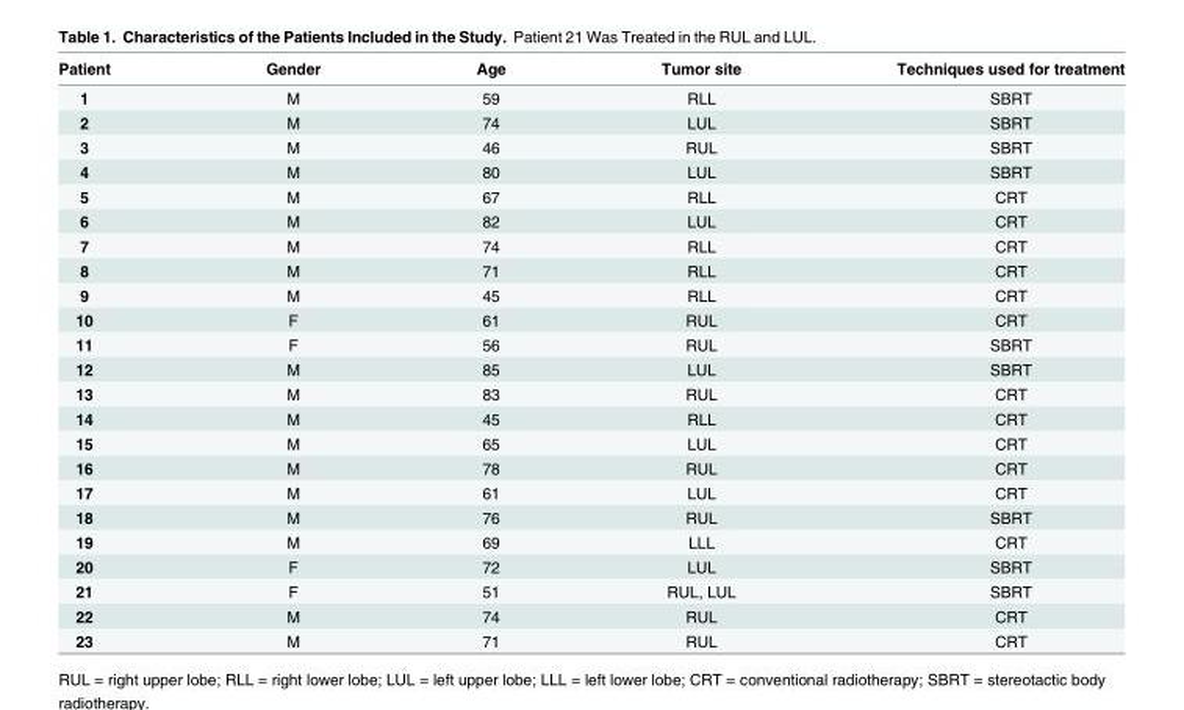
<table><thead><tr><td>Patient</td><td>Gender</td><td>Age</td><td>Tumor site</td><td>Techniques used for treatment</td></tr></thead><tbody><tr><td>1</td><td>M</td><td>59</td><td>RLL</td><td>SBRT</td></tr><tr><td>2</td><td>M</td><td>74</td><td>LUL</td><td>SBRT</td></tr><tr><td>3</td><td>M</td><td>46</td><td>RUL</td><td>SBRT</td></tr><tr><td>4</td><td>M</td><td>80</td><td>LUL</td><td>SBRT</td></tr><tr><td>5</td><td>M</td><td>67</td><td>RLL</td><td>CRT</td></tr><tr><td>6</td><td>M</td><td>82</td><td>LUL</td><td>CRT</td></tr><tr><td>7</td><td>M</td><td>74</td><td>RLL</td><td>CRT</td></tr><tr><td>8</td><td>M</td><td>71</td><td>RLL</td><td>CRT</td></tr><tr><td>9</td><td>M</td><td>45</td><td>RLL</td><td>CRT</td></tr><tr><td>10</td><td>F</td><td>61</td><td>RUL</td><td>CRT</td></tr><tr><td>11</td><td>F</td><td>56</td><td>RUL</td><td>SBRT</td></tr><tr><td>12</td><td>M</td><td>85</td><td>LUL</td><td>SBRT</td></tr><tr><td>13</td><td>M</td><td>83</td><td>RUL</td><td>CRT</td></tr><tr><td>14</td><td>M</td><td>45</td><td>RLL</td><td>CRT</td></tr><tr><td>15</td><td>M</td><td>65</td><td>LUL</td><td>CRT</td></tr><tr><td>16</td><td>M</td><td>78</td><td>RUL</td><td>CRT</td></tr><tr><td>17</td><td>M</td><td>61</td><td>LUL</td><td>CRT</td></tr><tr><td>18</td><td>M</td><td>76</td><td>RUL</td><td>SBRT</td></tr><tr><td>19</td><td>M</td><td>69</td><td>LLL</td><td>CRT</td></tr><tr><td>20</td><td>F</td><td>72</td><td>LUL</td><td>SBRT</td></tr><tr><td>21</td><td>F</td><td>51</td><td>RUL, LUL</td><td>SBRT</td></tr><tr><td>22</td><td>M</td><td>74</td><td>RUL</td><td>CRT</td></tr><tr><td>23</td><td>M</td><td>71</td><td>RUL</td><td>CRT</td></tr></tbody></table>